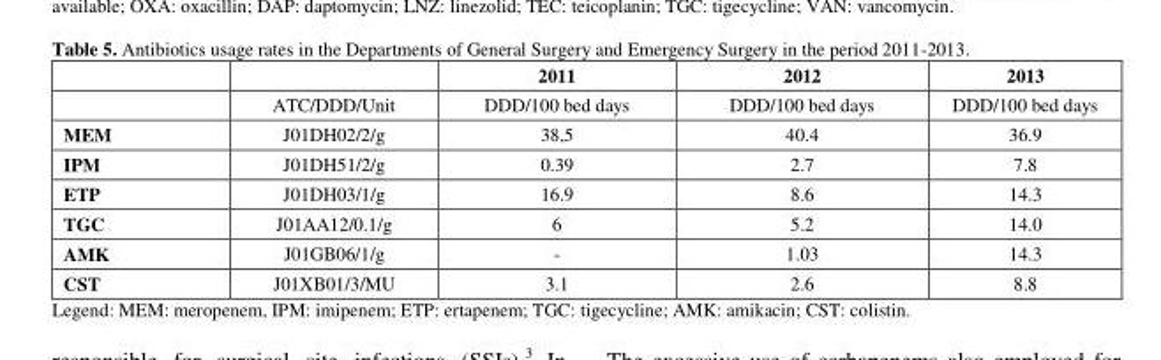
<table><thead><tr><td rowspan="2"></td><td rowspan="2">ATC/DDD/Unit</td><td rowspan="2">2011 DDD/100 bed days</td><td rowspan="2">2012 DDD/100 bed days</td><td rowspan="2">2013 DDD/100 bed days</td></tr><tr></tr></thead><tbody><tr><td>MEM</td><td>J01DH02/2/g</td><td>38,5</td><td>40.4</td><td>36.9</td></tr><tr><td>IPM</td><td>J01DH51/2/g</td><td>0.39</td><td>2.7</td><td>7.8</td></tr><tr><td>ETP</td><td>J01DH03/1/g</td><td>16.9</td><td>8.6</td><td>14.3</td></tr><tr><td>TGC</td><td>J01AA12/0.1/g</td><td>6</td><td>5.2</td><td>14.0</td></tr><tr><td>AMK</td><td>J01GB06/1/g</td><td>-</td><td>1.03</td><td>14.3</td></tr><tr><td>CST</td><td>J01XB01/3/MU</td><td>3.1</td><td>2.6</td><td>8.8</td></tr></tbody></table>